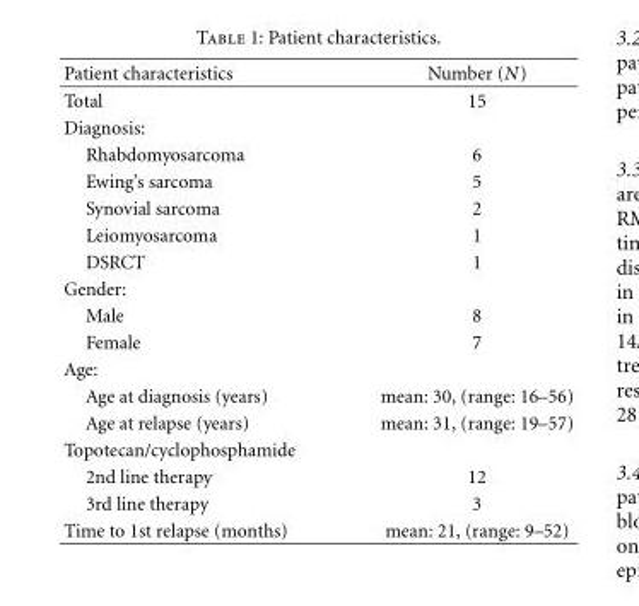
<table><thead><tr><td>Patient characteristics</td><td>Number (N)</td></tr></thead><tbody><tr><td>Total</td><td>15</td></tr><tr><td colspan="2">Diagnosis:</td></tr><tr><td>Rhabdomyosarcoma</td><td>6</td></tr><tr><td>Ewing’s sarcoma</td><td>5</td></tr><tr><td>Synovial sarcoma</td><td>2</td></tr><tr><td>Leiomyosarcoma</td><td>1</td></tr><tr><td>DSRCT</td><td>1</td></tr><tr><td colspan="2">Gender:</td></tr><tr><td>Male</td><td>8</td></tr><tr><td>Female</td><td>7</td></tr><tr><td colspan="2">Age:</td></tr><tr><td>Age at diagnosis (years)</td><td>mean: 30, (range: 16–56)</td></tr><tr><td>Age at relapse (years)</td><td>mean: 31, (range: 19–57)</td></tr><tr><td colspan="2">Topotecan/cyclophosphamide</td></tr><tr><td>2nd line therapy</td><td>12</td></tr><tr><td>3rd line therapy</td><td>3</td></tr><tr><td>Time to 1st relapse (months)</td><td>mean: 21, (range: 9–52)</td></tr></tbody></table>